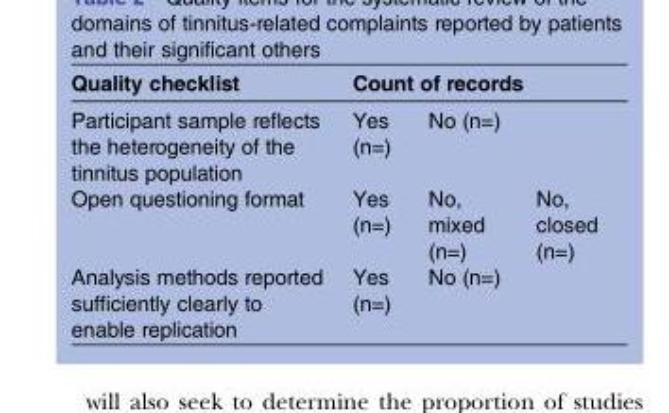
<table><thead><tr><td rowspan="2">Quality checklist Participant sample reflects the heterogeneity of the tinnitus population</td><td colspan="3">Count of records</td></tr><tr><td>Yes (n=)</td><td>No (n=)</td><td></td></tr></thead><tbody><tr><td>Open questioning format</td><td>Yes (n=)</td><td>No, mixed (n=)</td><td>No, closed (n=)</td></tr><tr><td>Analysis methods reported sufficiently clearly to enable replication</td><td>Yes (n=)</td><td>No (n=)</td><td></td></tr></tbody></table>